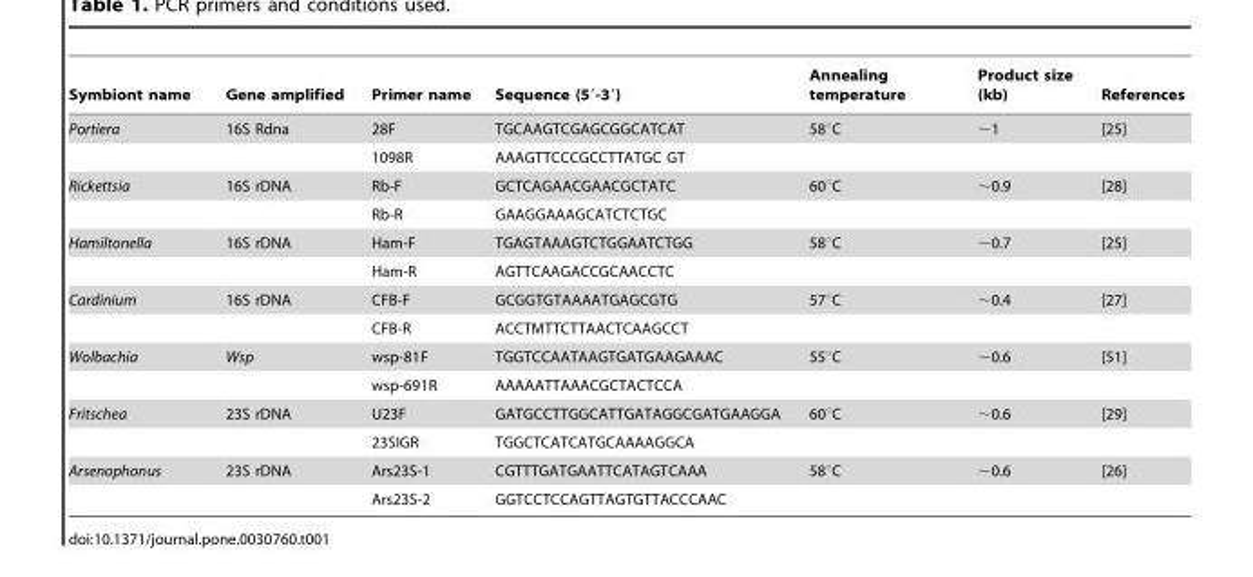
<table><thead><tr><td>Symbiont name</td><td>Gene amplified</td><td>Primer name</td><td>Sequence (5′-3′)</td><td>Annealing temperature</td><td>Product size (kb)</td><td>References</td></tr></thead><tbody><tr><td rowspan="2">Portiera</td><td>16S Rdna</td><td>28F</td><td>TGCAAGTCGAGCGGCATCAT</td><td>58°C</td><td>∼1</td><td>[25]</td></tr><tr><td></td><td>1098R</td><td>AAAGTTCCCGCCTTATGC GT</td><td></td><td></td><td></td></tr><tr><td rowspan="2">Rickettsia</td><td>16S rDNA</td><td>Rb-F</td><td>GCTCAGAACGAACGCTATC</td><td>60°C</td><td>∼0.9</td><td>[28]</td></tr><tr><td></td><td>Rb-R</td><td>GAAGGAAAGCATCTCTGC</td><td></td><td></td><td></td></tr><tr><td rowspan="2">Hamiltonella</td><td>16S rDNA</td><td>Ham-F</td><td>TGAGTAAAGTCTGGAATCTGG</td><td>58°C</td><td>∼0.7</td><td>[25]</td></tr><tr><td></td><td>Ham-R</td><td>AGTTCAAGACCGCAACCTC</td><td></td><td></td><td></td></tr><tr><td rowspan="2">Cardinium</td><td>16S rDNA</td><td>CFB-F</td><td>GCGGTGTAAAATGAGCGTG</td><td>57°C</td><td>∼0.4</td><td>[27]</td></tr><tr><td></td><td>CFB-R</td><td>ACCTMTTCTTAACTCAAGCCT</td><td></td><td></td><td></td></tr><tr><td rowspan="2">Wolbachia</td><td>Wsp</td><td>wsp-81F</td><td>TGGTCCAATAAGTGATGAAGAAAC</td><td>55°C</td><td>∼0.6</td><td>[51]</td></tr><tr><td></td><td>wsp-691R</td><td>AAAAATTAAACGCTACTCCA</td><td></td><td></td><td></td></tr><tr><td rowspan="2">Fritschea</td><td>23S rDNA</td><td>U23F</td><td>GATGCCTTGGCATTGATAGGCGATGAAGGA</td><td>60°C</td><td>∼0.6</td><td>[29]</td></tr><tr><td></td><td>23SIGR</td><td>TGGCTCATCATGCAAAAGGCA</td><td></td><td></td><td></td></tr><tr><td rowspan="2">Arsenophonus</td><td>23S rDNA</td><td>Ars23S-1</td><td>CGTTTGATGAATTCATAGTCAAA</td><td>58°C</td><td>∼0.6</td><td>[26]</td></tr><tr><td></td><td>Ars23S-2</td><td>GGTCCTCCAGTTAGTGTTACCCAAC</td><td></td><td></td><td></td></tr></tbody></table>